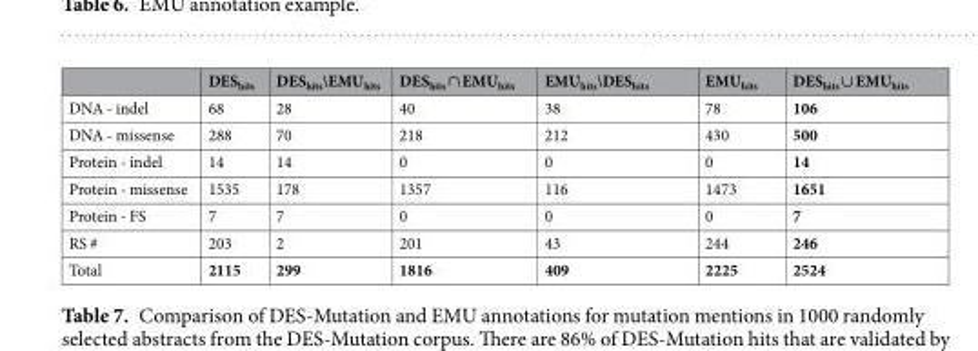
<table><thead><tr><td></td><td>DES<sub>hits</sub></td><td>DES<sub>hits</sub>\EMU<sub>hits</sub></td><td>DES<sub>hits</sub> ∩ EMU<sub>hits</sub></td><td>EMU<sub>hits</sub>\DES<sub>hits</sub></td><td>EMU<sub>hits</sub></td><td>DES<sub>hits</sub> ∪ EMU<sub>hits</sub></td></tr></thead><tbody><tr><td>DNA - indel</td><td>68</td><td>28</td><td>40</td><td>38</td><td>78</td><td>106</td></tr><tr><td>DNA - missense</td><td>288</td><td>70</td><td>218</td><td>212</td><td>430</td><td>500</td></tr><tr><td>Protein - indel</td><td>14</td><td>14</td><td>0</td><td>0</td><td>0</td><td>14</td></tr><tr><td>Protein - missense</td><td>1535</td><td>178</td><td>1357</td><td>116</td><td>1473</td><td>1651</td></tr><tr><td>Protein - FS</td><td>7</td><td>7</td><td>0</td><td>0</td><td>0</td><td>7</td></tr><tr><td>RS #</td><td>203</td><td>2</td><td>201</td><td>43</td><td>244</td><td>246</td></tr><tr><td>Total</td><td>2115</td><td>299</td><td>1816</td><td>409</td><td>2225</td><td>2524</td></tr></tbody></table>